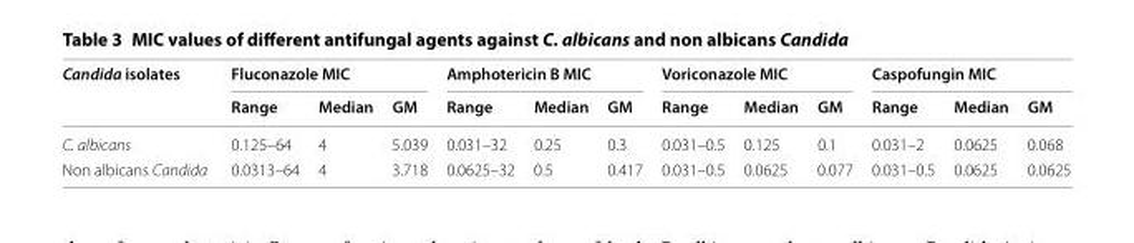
<table><thead><tr><td rowspan="2">Candida isolates</td><td colspan="3">Fluconazole MIC</td><td colspan="3">Amphotericin B MIC</td><td colspan="3">Voriconazole MIC</td><td colspan="3">Caspofungin MIC</td></tr><tr><td>Range</td><td>Median</td><td>GM</td><td>Range</td><td>Median</td><td>GM</td><td>Range</td><td>Median</td><td>GM</td><td>Range</td><td>Median</td><td>GM</td></tr></thead><tbody><tr><td>C. albicans</td><td>0.125–64</td><td>4</td><td>5.039</td><td>0.031–32</td><td>0.25</td><td>0.3</td><td>0.031–0.5</td><td>0.125</td><td>0.1</td><td>0.031–2</td><td>0.0625</td><td>0.068</td></tr><tr><td>Non albicans Candida</td><td>0.0313–64</td><td>4</td><td>3.718</td><td>0.0625–32</td><td>0.5</td><td>0.417</td><td>0.031–0.5</td><td>0.0625</td><td>0.077</td><td>0.031–0.5</td><td>0.0625</td><td>0.0625</td></tr></tbody></table>